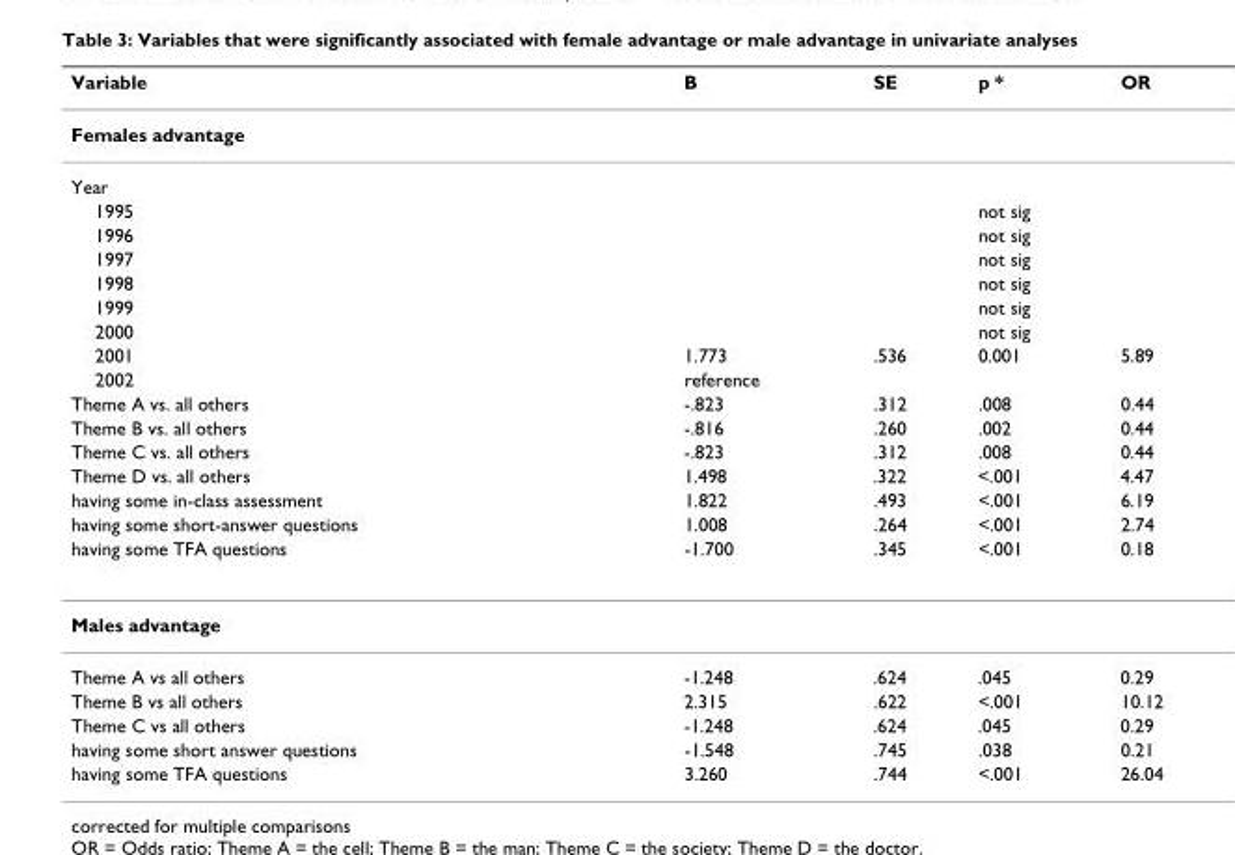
<table><thead><tr><td>Variable</td><td>B</td><td>SE</td><td>p *</td><td>OR</td></tr></thead><tbody><tr><td colspan="5">Females advantage</td></tr><tr><td colspan="5">Year</td></tr><tr><td>1995</td><td></td><td></td><td>not sig</td><td></td></tr><tr><td>1996</td><td></td><td></td><td>not sig</td><td></td></tr><tr><td>1997</td><td></td><td></td><td>not sig</td><td></td></tr><tr><td>1998</td><td></td><td></td><td>not sig</td><td></td></tr><tr><td>1999</td><td></td><td></td><td>not sig</td><td></td></tr><tr><td>2000</td><td></td><td></td><td>not sig</td><td></td></tr><tr><td>2001</td><td>1.773</td><td>.536</td><td>0.001</td><td>5.89</td></tr><tr><td>2002</td><td>reference</td><td></td><td></td><td></td></tr><tr><td>Theme A vs. all others</td><td>-.823</td><td>.312</td><td>.008</td><td>0.44</td></tr><tr><td>Theme B vs. all others</td><td>-.816</td><td>.260</td><td>.002</td><td>0.44</td></tr><tr><td>Theme C vs. all others</td><td>-.823</td><td>.312</td><td>.008</td><td>0.44</td></tr><tr><td>Theme D vs. all others</td><td>1.498</td><td>.322</td><td>&lt;.001</td><td>4.47</td></tr><tr><td>having some in-class assessment</td><td>1.822</td><td>.493</td><td>&lt;.001</td><td>6.19</td></tr><tr><td>having some short-answer questions</td><td>1.008</td><td>.264</td><td>&lt;.001</td><td>2.74</td></tr><tr><td>having some TFA questions</td><td>-1.700</td><td>.345</td><td>&lt;.001</td><td>0.18</td></tr><tr><td colspan="5">Males advantage</td></tr><tr><td>Theme A vs all others</td><td>-1.248</td><td>.624</td><td>.045</td><td>0.29</td></tr><tr><td>Theme B vs all others</td><td>2.315</td><td>.622</td><td>&lt;.001</td><td>10.12</td></tr><tr><td>Theme C vs all others</td><td>-1.248</td><td>.624</td><td>.045</td><td>0.29</td></tr><tr><td>having some short answer questions</td><td>-1.548</td><td>.745</td><td>.038</td><td>0.21</td></tr><tr><td>having some TFA questions</td><td>3.260</td><td>.744</td><td>&lt;.001</td><td>26.04</td></tr></tbody></table>